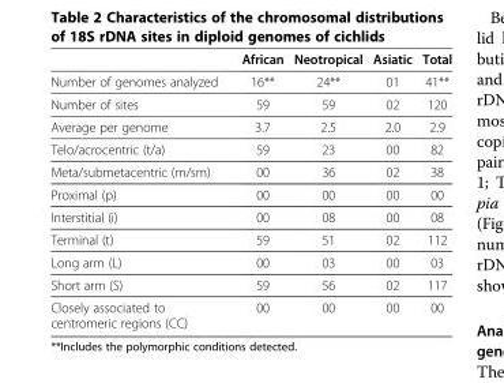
<table><thead><tr><td></td><td>African</td><td>Neotropical</td><td>Asiatic</td><td>Total</td></tr></thead><tbody><tr><td>Number of genomes analyzed</td><td>16**</td><td>24**</td><td>01</td><td>41**</td></tr><tr><td>Number of sites</td><td>59</td><td>59</td><td>02</td><td>120</td></tr><tr><td>Average per genome</td><td>3.7</td><td>2.5</td><td>2.0</td><td>2.9</td></tr><tr><td>Telo/acrocentric (t/a)</td><td>59</td><td>23</td><td>00</td><td>82</td></tr><tr><td>Meta/submetacentric (m/sm)</td><td>00</td><td>36</td><td>02</td><td>38</td></tr><tr><td>Proximal (p)</td><td>00</td><td>00</td><td>00</td><td>00</td></tr><tr><td>Interstitial (i)</td><td>00</td><td>08</td><td>00</td><td>08</td></tr><tr><td>Terminal (t)</td><td>59</td><td>51</td><td>02</td><td>112</td></tr><tr><td>Long arm (L)</td><td>00</td><td>03</td><td>00</td><td>03</td></tr><tr><td>Short arm (S)</td><td>59</td><td>56</td><td>02</td><td>117</td></tr><tr><td>Closely associated to centromeric regions (CC)</td><td>00</td><td>00</td><td>00</td><td>00</td></tr></tbody></table>